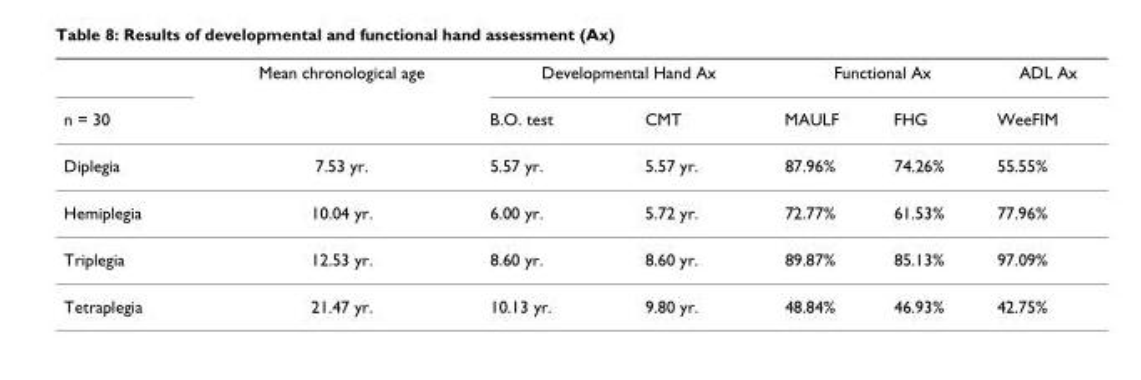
<table><thead><tr><td rowspan="2">n = 30</td><td rowspan="2">Mean chronological age</td><td colspan="2">Developmental Hand Ax</td><td colspan="2">Functional Ax</td><td rowspan="2">ADL Ax WeeFIM</td></tr><tr><td>B.O. test</td><td>CMT</td><td>MAULF</td><td>FHG</td></tr></thead><tbody><tr><td>Diplegia</td><td>7.53 yr.</td><td>5.57 yr.</td><td>5.57 yr.</td><td>87.96%</td><td>74.26%</td><td>55.55%</td></tr><tr><td>Hemiplegia</td><td>10.04 yr.</td><td>6.00 yr.</td><td>5.72 yr.</td><td>72.77%</td><td>61.53%</td><td>77.96%</td></tr><tr><td>Triplegia</td><td>12.53 yr.</td><td>8.60 yr.</td><td>8.60 yr.</td><td>89.87%</td><td>85.13%</td><td>97.09%</td></tr><tr><td>Tetraplegia</td><td>21.47 yr.</td><td>10.13 yr.</td><td>9.80 yr.</td><td>48.84%</td><td>46.93%</td><td>42.75%</td></tr></tbody></table>